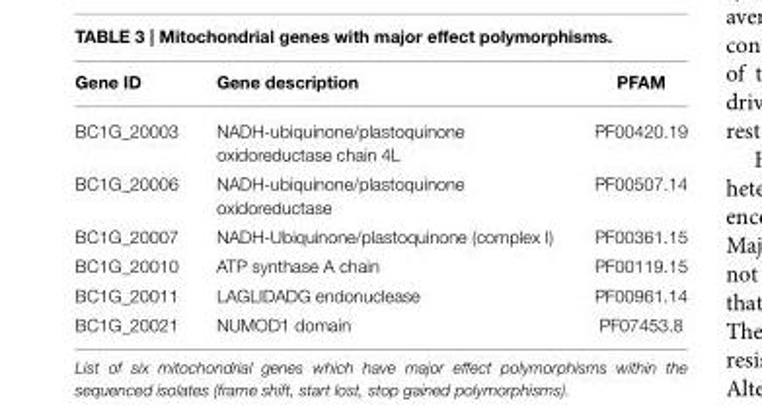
<table><thead><tr><td>Gene ID</td><td>Gene description</td><td>PFAM</td></tr></thead><tbody><tr><td>BC1G_20003</td><td>NADH-ubiquinone/plastoquinone oxidoreductase chain 4L</td><td>PF00420.19</td></tr><tr><td>BC1G_20006</td><td>NADH-ubiquinone/plastoquinone oxidoreductase</td><td>PF00507.14</td></tr><tr><td>BC1G_20007</td><td>NADH-Ubiquinone/plastoquinone (complex I)</td><td>PF00361.15</td></tr><tr><td>BC1G_20010</td><td>ATP synthase A chain</td><td>PF00119.15</td></tr><tr><td>BC1G_20011</td><td>LAGLIDADG endonuclease</td><td>PF00961.14</td></tr><tr><td>BC1G_20021</td><td>NUMOD1 domain</td><td>PF07453.8</td></tr></tbody></table>